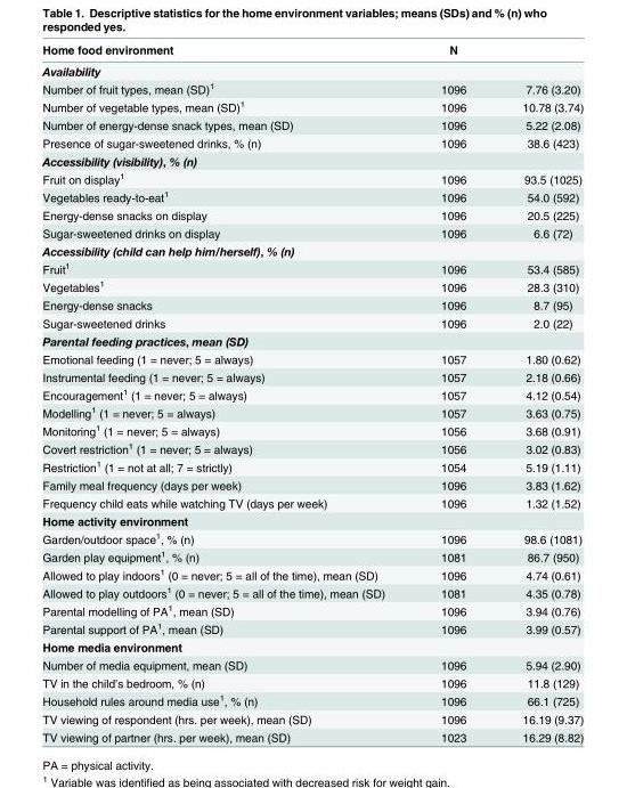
<table><thead><tr><td>Home food environment</td><td>N</td><td></td></tr></thead><tbody><tr><td colspan="3">Availability</td></tr><tr><td>Number of fruit types, mean (SD)<sup>1</sup></td><td>1096</td><td>7.76 (3.20)</td></tr><tr><td>Number of vegetable types, mean (SD)<sup>1</sup></td><td>1096</td><td>10.78 (3.74)</td></tr><tr><td>Number of energy-dense snack types, mean (SD)</td><td>1096</td><td>5.22 (2.08)</td></tr><tr><td>Presence of sugar-sweetened drinks, % (n)</td><td>1096</td><td>38.6 (423)</td></tr><tr><td colspan="3">Accessibility (visibility), % (n)</td></tr><tr><td>Fruit on display<sup>1</sup></td><td>1096</td><td>93.5 (1025)</td></tr><tr><td>Vegetables ready-to-eat<sup>1</sup></td><td>1096</td><td>54.0 (592)</td></tr><tr><td>Energy-dense snacks on display</td><td>1096</td><td>20.5 (225)</td></tr><tr><td>Sugar-sweetened drinks on display</td><td>1096</td><td>6.6 (72)</td></tr><tr><td colspan="3">Accessibility (child can help him/herself), % (n)</td></tr><tr><td>Fruit<sup>1</sup></td><td>1096</td><td>53.4 (585)</td></tr><tr><td>Vegetables<sup>1</sup></td><td>1096</td><td>28.3 (310)</td></tr><tr><td>Energy-dense snacks</td><td>1096</td><td>8.7 (95)</td></tr><tr><td>Sugar-sweetened drinks</td><td>1096</td><td>2.0 (22)</td></tr><tr><td colspan="3">Parental feeding practices, mean (SD)</td></tr><tr><td>Emotional feeding (1 = never; 5 = always)</td><td>1057</td><td>1.80 (0.62)</td></tr><tr><td>Instrumental feeding (1 = never; 5 = always)</td><td>1057</td><td>2.18 (0.66)</td></tr><tr><td>Encouragement<sup>1</sup> (1 = never; 5 = always)</td><td>1057</td><td>4.12 (0.54)</td></tr><tr><td>Modelling<sup>1</sup> (1 = never; 5 = always)</td><td>1057</td><td>3.63 (0.75)</td></tr><tr><td>Monitoring<sup>1</sup> (1 = never; 5 = always)</td><td>1056</td><td>3.68 (0.91)</td></tr><tr><td>Covert restriction<sup>1</sup> (1 = never; 5 = always)</td><td>1056</td><td>3.02 (0.83)</td></tr><tr><td>Restriction<sup>1</sup> (1 = not at all; 7 = strictly)</td><td>1054</td><td>5.19 (1.11)</td></tr><tr><td>Family meal frequency (days per week)</td><td>1096</td><td>3.83 (1.62)</td></tr><tr><td>Frequency child eats while watching TV (days per week)</td><td>1096</td><td>1.32 (1.52)</td></tr><tr><td colspan="3">Home activity environment</td></tr><tr><td>Garden/outdoor space<sup>1</sup>, % (n)</td><td>1096</td><td>98.6 (1081)</td></tr><tr><td>Garden play equipment<sup>1</sup>, % (n)</td><td>1081</td><td>86.7 (950)</td></tr><tr><td>Allowed to play indoors<sup>1</sup> (0 = never; 5 = all of the time), mean (SD)</td><td>1096</td><td>4.74 (0.61)</td></tr><tr><td>Allowed to play outdoors<sup>1</sup> (0 = never; 5 = all of the time), mean (SD)</td><td>1081</td><td>4.35 (0.78)</td></tr><tr><td>Parental modelling of PA<sup>1</sup>, mean (SD)</td><td>1096</td><td>3.94 (0.76)</td></tr><tr><td>Parental support of PA<sup>1</sup>, mean (SD)</td><td>1096</td><td>3.99 (0.57)</td></tr><tr><td colspan="3">Home media environment</td></tr><tr><td>Number of media equipment, mean (SD)</td><td>1096</td><td>5.94 (2.90)</td></tr><tr><td>TV in the child’s bedroom, % (n)</td><td>1096</td><td>11.8 (129)</td></tr><tr><td>Household rules around media use<sup>1</sup>, % (n)</td><td>1096</td><td>66.1 (725)</td></tr><tr><td>TV viewing of respondent (hrs. per week), mean (SD)</td><td>1096</td><td>16.19 (9.37)</td></tr><tr><td>TV viewing of partner (hrs. per week), mean (SD)</td><td>1023</td><td>16.29 (8.82)</td></tr></tbody></table>